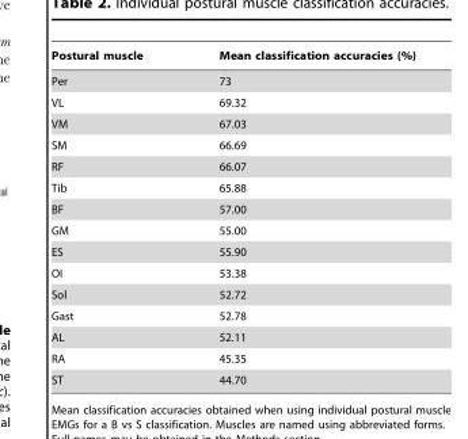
<table><thead><tr><td>Postural muscle</td><td>Mean classification accuracies (%)</td></tr></thead><tbody><tr><td>Per</td><td>73</td></tr><tr><td>VL</td><td>69.32</td></tr><tr><td>VM</td><td>67.03</td></tr><tr><td>SM</td><td>66.69</td></tr><tr><td>RF</td><td>66.07</td></tr><tr><td>Tib</td><td>65.88</td></tr><tr><td>BF</td><td>57.00</td></tr><tr><td>GM</td><td>55.00</td></tr><tr><td>ES</td><td>55.90</td></tr><tr><td>OI</td><td>53.38</td></tr><tr><td>Sol</td><td>52.72</td></tr><tr><td>Gast</td><td>52.78</td></tr><tr><td>AL</td><td>52.11</td></tr><tr><td>RA</td><td>45.35</td></tr><tr><td>ST</td><td>44.70</td></tr></tbody></table>